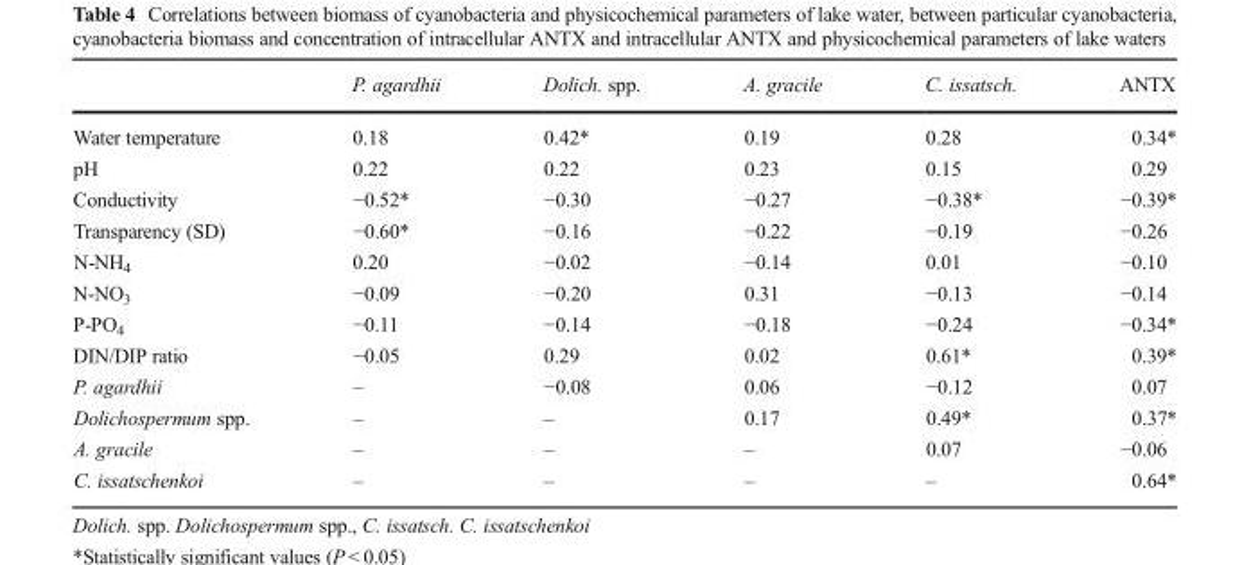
<table><thead><tr><td></td><td>P. agardhii</td><td>Dolich. spp.</td><td>A. gracile</td><td>C. issatsch.</td><td>ANTX</td></tr></thead><tbody><tr><td>Water temperature</td><td>0.18</td><td>0.42*</td><td>0.19</td><td>0.28</td><td>0.34*</td></tr><tr><td>pH</td><td>0.22</td><td>0.22</td><td>0.23</td><td>0.15</td><td>0.29</td></tr><tr><td>Conductivity</td><td>−0.52*</td><td>−0.30</td><td>−0.27</td><td>−0.38*</td><td>−0.39*</td></tr><tr><td>Transparency (SD)</td><td>−0.60*</td><td>−0.16</td><td>−0.22</td><td>−0.19</td><td>−0.26</td></tr><tr><td>N-NH<sub>4</sub></td><td>0.20</td><td>−0.02</td><td>−0.14</td><td>0.01</td><td>−0.10</td></tr><tr><td>N-NO<sub>3</sub></td><td>−0.09</td><td>−0.20</td><td>0.31</td><td>−0.13</td><td>−0.14</td></tr><tr><td>P-PO<sub>4</sub></td><td>−0.11</td><td>−0.14</td><td>−0.18</td><td>−0.24</td><td>−0.34*</td></tr><tr><td>DIN/DIP ratio</td><td>−0.05</td><td>0.29</td><td>0.02</td><td>0.61*</td><td>0.39*</td></tr><tr><td>P. agardhii</td><td>–</td><td>−0.08</td><td>0.06</td><td>−0.12</td><td>0.07</td></tr><tr><td>Dolichospermum spp.</td><td>–</td><td>–</td><td>0.17</td><td>0.49*</td><td>0.37*</td></tr><tr><td>A. gracile</td><td>–</td><td>–</td><td>–</td><td>0.07</td><td>−0.06</td></tr><tr><td>C. issatschenkoi</td><td>–</td><td>–</td><td>–</td><td>–</td><td>0.64*</td></tr></tbody></table>